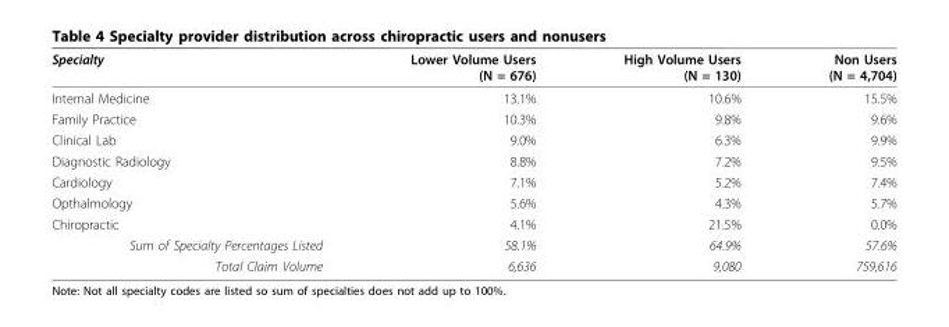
<table><thead><tr><td>Specialty</td><td>Lower Volume Users (N = 676)</td><td>High Volume Users (N = 130)</td><td>Non Users (N = 4,704)</td></tr></thead><tbody><tr><td>Internal Medicine</td><td>13.1%</td><td>10.6%</td><td>15.5%</td></tr><tr><td>Family Practice</td><td>10.3%</td><td>9.8%</td><td>9.6%</td></tr><tr><td>Clinical Lab</td><td>9.0%</td><td>6.3%</td><td>9.9%</td></tr><tr><td>Diagnostic Radiology</td><td>8.8%</td><td>7.2%</td><td>9.5%</td></tr><tr><td>Cardiology</td><td>7.1%</td><td>5.2%</td><td>7.4%</td></tr><tr><td>Opthalmology</td><td>5.6%</td><td>4.3%</td><td>5.7%</td></tr><tr><td>Chiropractic</td><td>4.1%</td><td>21.5%</td><td>0.0%</td></tr><tr><td>Sum of Specialty Percentages Listed</td><td>58.1%</td><td>64.9%</td><td>57.6%</td></tr><tr><td>Total Claim Volume</td><td>6,636</td><td>9,080</td><td>759,616</td></tr></tbody></table>